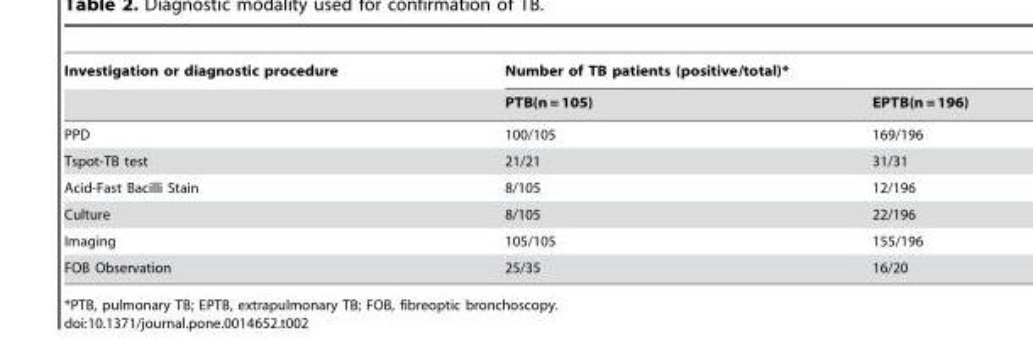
<table><thead><tr><td rowspan="2">Investigation or diagnostic procedure</td><td colspan="2">Number of TB patients (positive/total)*</td></tr><tr><td>PTB(n = 105)</td><td>EPTB(n = 196)</td></tr></thead><tbody><tr><td>PPD</td><td>100/105</td><td>169/196</td></tr><tr><td>Tspot-TB test</td><td>21/21</td><td>31/31</td></tr><tr><td>Acid-Fast Bacilli Stain</td><td>8/105</td><td>12/196</td></tr><tr><td>Culture</td><td>8/105</td><td>22/196</td></tr><tr><td>Imaging</td><td>105/105</td><td>155/196</td></tr><tr><td>FOB Observation</td><td>25/35</td><td>16/20</td></tr></tbody></table>